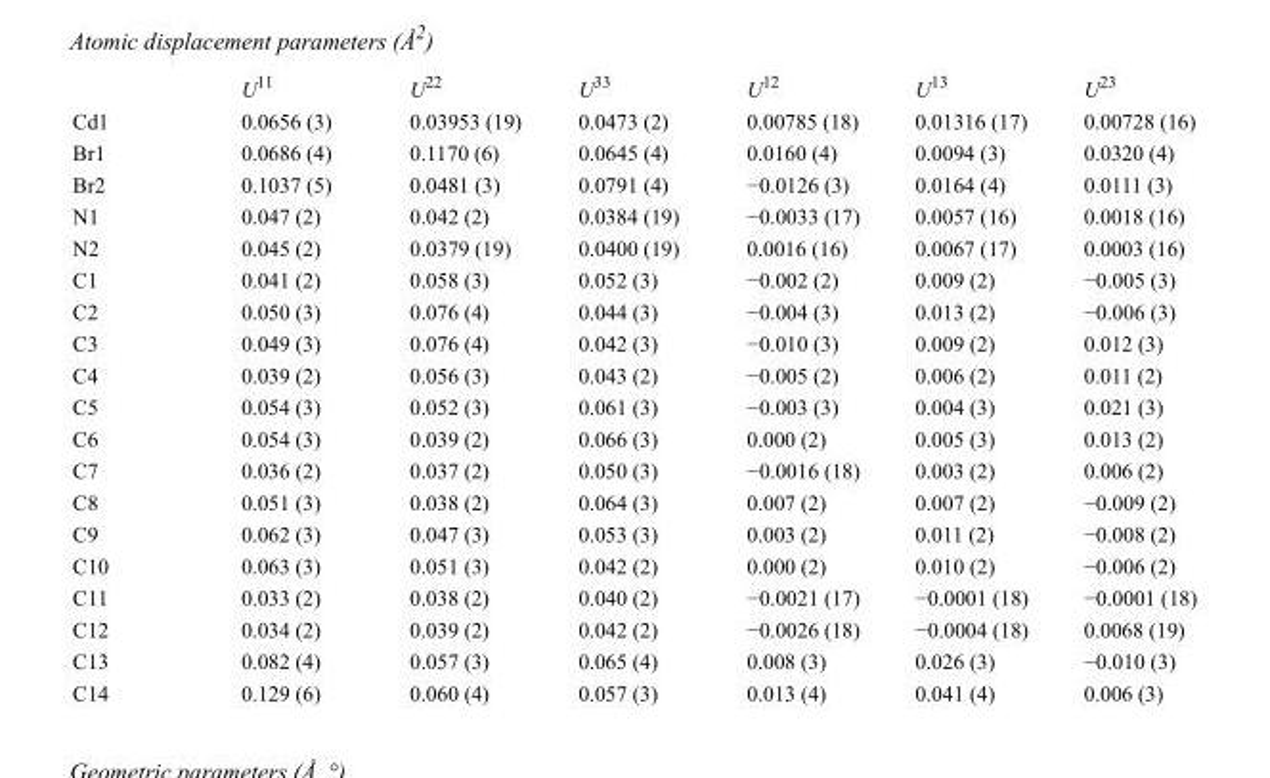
<table><thead><tr><td></td><td>U<sup>11</sup></td><td>U<sup>22</sup></td><td>U<sup>33</sup></td><td>U<sup>12</sup></td><td>U<sup>13</sup></td><td>U<sup>23</sup></td></tr></thead><tbody><tr><td>Cd1</td><td>0.0656 (3)</td><td>0.03953 (19)</td><td>0.0473 (2)</td><td>0.00785 (18)</td><td>0.01316 (17)</td><td>0.00728 (16)</td></tr><tr><td>Br1</td><td>0.0686 (4)</td><td>0.1170 (6)</td><td>0.0645 (4)</td><td>0.0160 (4)</td><td>0.0094 (3)</td><td>0.0320 (4)</td></tr><tr><td>Br2</td><td>0.1037 (5)</td><td>0.0481 (3)</td><td>0.0791 (4)</td><td>−0.0126 (3)</td><td>0.0164 (4)</td><td>0.0111 (3)</td></tr><tr><td>N1</td><td>0.047 (2)</td><td>0.042 (2)</td><td>0.0384 (19)</td><td>−0.0033 (17)</td><td>0.0057 (16)</td><td>0.0018 (16)</td></tr><tr><td>N2</td><td>0.045 (2)</td><td>0.0379 (19)</td><td>0.0400 (19)</td><td>0.0016 (16)</td><td>0.0067 (17)</td><td>0.0003 (16)</td></tr><tr><td>C1</td><td>0.041 (2)</td><td>0.058 (3)</td><td>0.052 (3)</td><td>−0.002 (2)</td><td>0.009 (2)</td><td>−0.005 (3)</td></tr><tr><td>C2</td><td>0.050 (3)</td><td>0.076 (4)</td><td>0.044 (3)</td><td>−0.004 (3)</td><td>0.013 (2)</td><td>−0.006 (3)</td></tr><tr><td>C3</td><td>0.049 (3)</td><td>0.076 (4)</td><td>0.042 (3)</td><td>−0.010 (3)</td><td>0.009 (2)</td><td>0.012 (3)</td></tr><tr><td>C4</td><td>0.039 (2)</td><td>0.056 (3)</td><td>0.043 (2)</td><td>−0.005 (2)</td><td>0.006 (2)</td><td>0.011 (2)</td></tr><tr><td>C5</td><td>0.054 (3)</td><td>0.052 (3)</td><td>0.061 (3)</td><td>−0.003 (3)</td><td>0.004 (3)</td><td>0.021 (3)</td></tr><tr><td>C6</td><td>0.054 (3)</td><td>0.039 (2)</td><td>0.066 (3)</td><td>0.000 (2)</td><td>0.005 (3)</td><td>0.013 (2)</td></tr><tr><td>C7</td><td>0.036 (2)</td><td>0.037 (2)</td><td>0.050 (3)</td><td>−0.0016 (18)</td><td>0.003 (2)</td><td>0.006 (2)</td></tr><tr><td>C8</td><td>0.051 (3)</td><td>0.038 (2)</td><td>0.064 (3)</td><td>0.007 (2)</td><td>0.007 (2)</td><td>−0.009 (2)</td></tr><tr><td>C9</td><td>0.062 (3)</td><td>0.047 (3)</td><td>0.053 (3)</td><td>0.003 (2)</td><td>0.011 (2)</td><td>−0.008 (2)</td></tr><tr><td>C10</td><td>0.063 (3)</td><td>0.051 (3)</td><td>0.042 (2)</td><td>0.000 (2)</td><td>0.010 (2)</td><td>−0.006 (2)</td></tr><tr><td>C11</td><td>0.033 (2)</td><td>0.038 (2)</td><td>0.040 (2)</td><td>−0.0021 (17)</td><td>−0.0001 (18)</td><td>−0.0001 (18)</td></tr><tr><td>C12</td><td>0.034 (2)</td><td>0.039 (2)</td><td>0.042 (2)</td><td>−0.0026 (18)</td><td>−0.0004 (18)</td><td>0.0068 (19)</td></tr><tr><td>C13</td><td>0.082 (4)</td><td>0.057 (3)</td><td>0.065 (4)</td><td>0.008 (3)</td><td>0.026 (3)</td><td>−0.010 (3)</td></tr><tr><td>C14</td><td>0.129 (6)</td><td>0.060 (4)</td><td>0.057 (3)</td><td>0.013 (4)</td><td>0.041 (4)</td><td>0.006 (3)</td></tr></tbody></table>